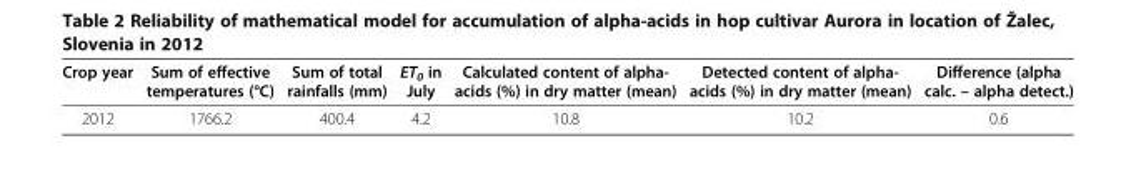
<table><thead><tr><td>Crop year</td><td>Sum of effective temperatures (°C)</td><td>Sum of total rainfalls (mm)</td><td>ET<sub>0</sub> in July</td><td>Calculated content of alpha- acids (%) in dry matter (mean)</td><td>Detected content of alpha- acids (%) in dry matter (mean)</td><td>Difference (alpha calc. – alpha detect.)</td></tr></thead><tbody><tr><td>2012</td><td>1766.2</td><td>400.4</td><td>4.2</td><td>10.8</td><td>10.2</td><td>0.6</td></tr></tbody></table>